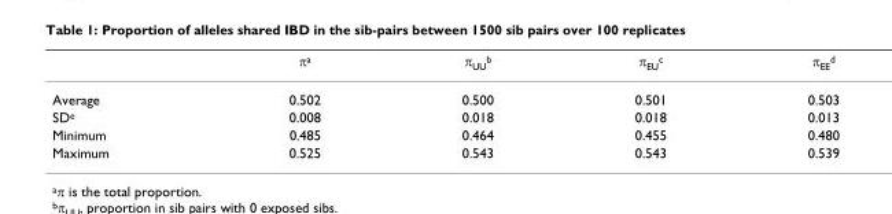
<table><thead><tr><td></td><td>π<sup>a</sup></td><td>π<sub>UU</sub><sup>b</sup></td><td>π<sub>EU</sub><sup>c</sup></td><td>π<sub>EE</sub><sup>d</sup></td></tr></thead><tbody><tr><td>Average</td><td>0.502</td><td>0.500</td><td>0.501</td><td>0.503</td></tr><tr><td>SD<sup>e</sup></td><td>0.008</td><td>0.018</td><td>0.018</td><td>0.013</td></tr><tr><td>Minimum</td><td>0.485</td><td>0.464</td><td>0.455</td><td>0.480</td></tr><tr><td>Maximum</td><td>0.525</td><td>0.543</td><td>0.543</td><td>0.539</td></tr></tbody></table>